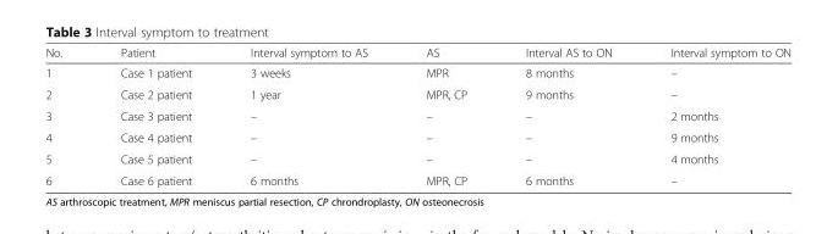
<table><thead><tr><td>No.</td><td>Patient</td><td>Interval symptom to AS</td><td>AS</td><td>Interval AS to ON</td><td>Interval symptom to ON</td></tr></thead><tbody><tr><td>1</td><td>Case 1 patient</td><td>3 weeks</td><td>MPR</td><td>8 months</td><td>–</td></tr><tr><td>2</td><td>Case 2 patient</td><td>1 year</td><td>MPR, CP</td><td>9 months</td><td>–</td></tr><tr><td>3</td><td>Case 3 patient</td><td>–</td><td>–</td><td>–</td><td>2 months</td></tr><tr><td>4</td><td>Case 4 patient</td><td>–</td><td>–</td><td>–</td><td>9 months</td></tr><tr><td>5</td><td>Case 5 patient</td><td>–</td><td>–</td><td>–</td><td>4 months</td></tr><tr><td>6</td><td>Case 6 patient</td><td>6 months</td><td>MPR, CP</td><td>6 months</td><td>–</td></tr></tbody></table>